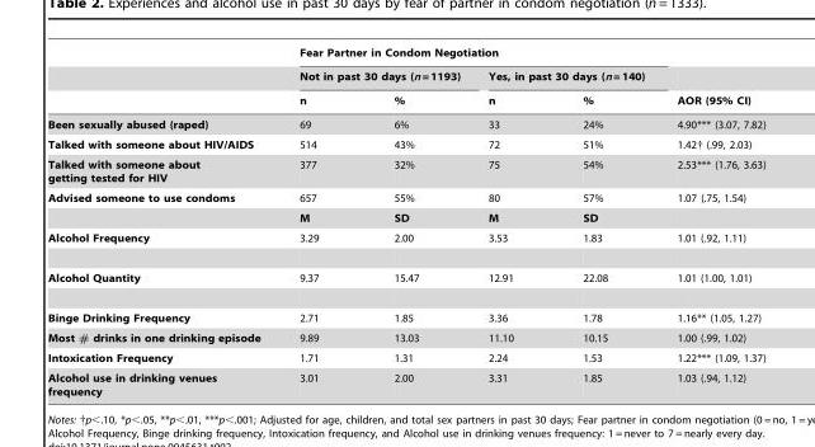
<table><thead><tr><td rowspan="3"></td><td colspan="4">Fear Partner in Condom Negotiation</td><td rowspan="3">AOR (95% CI)</td></tr><tr><td colspan="2">Not in past 30 days (n = 1193)</td><td colspan="2">Yes, in past 30 days (n = 140)</td></tr><tr><td>n</td><td>%</td><td>n</td><td>%</td></tr></thead><tbody><tr><td>Been sexually abused (raped)</td><td>69</td><td>6%</td><td>33</td><td>24%</td><td>4.90*** (3.07, 7.82)</td></tr><tr><td>Talked with someone about HIV/AIDS</td><td>514</td><td>43%</td><td>72</td><td>51%</td><td>1.42† (.99, 2.03)</td></tr><tr><td>Talked with someone about getting tested for HIV</td><td>377</td><td>32%</td><td>75</td><td>54%</td><td>2.53*** (1.76, 3.63)</td></tr><tr><td rowspan="2">Advised someone to use condoms</td><td>657</td><td>55%</td><td>80</td><td>57%</td><td>1.07 (.75, 1.54)</td></tr><tr><td>M</td><td>SD</td><td>M</td><td>SD</td><td></td></tr><tr><td>Alcohol Frequency</td><td>3.29</td><td>2.00</td><td>3.53</td><td>1.83</td><td>1.01 (.92, 1.11)</td></tr><tr><td>Alcohol Quantity</td><td>9.37</td><td>15.47</td><td>12.91</td><td>22.08</td><td>1.01 (1.00, 1.01)</td></tr><tr><td>Binge Drinking Frequency</td><td>2.71</td><td>1.85</td><td>3.36</td><td>1.78</td><td>1.16** (1.05, 1.27)</td></tr><tr><td>Most # drinks in one drinking episode</td><td>9.89</td><td>13.03</td><td>11.10</td><td>10.15</td><td>1.00 (.99, 1.02)</td></tr><tr><td>Intoxication Frequency</td><td>1.71</td><td>1.31</td><td>2.24</td><td>1.53</td><td>1.22*** (1.09, 1.37)</td></tr><tr><td>Alcohol use in drinking venues frequency</td><td>3.01</td><td>2.00</td><td>3.31</td><td>1.85</td><td>1.03 (.94, 1.12)</td></tr></tbody></table>